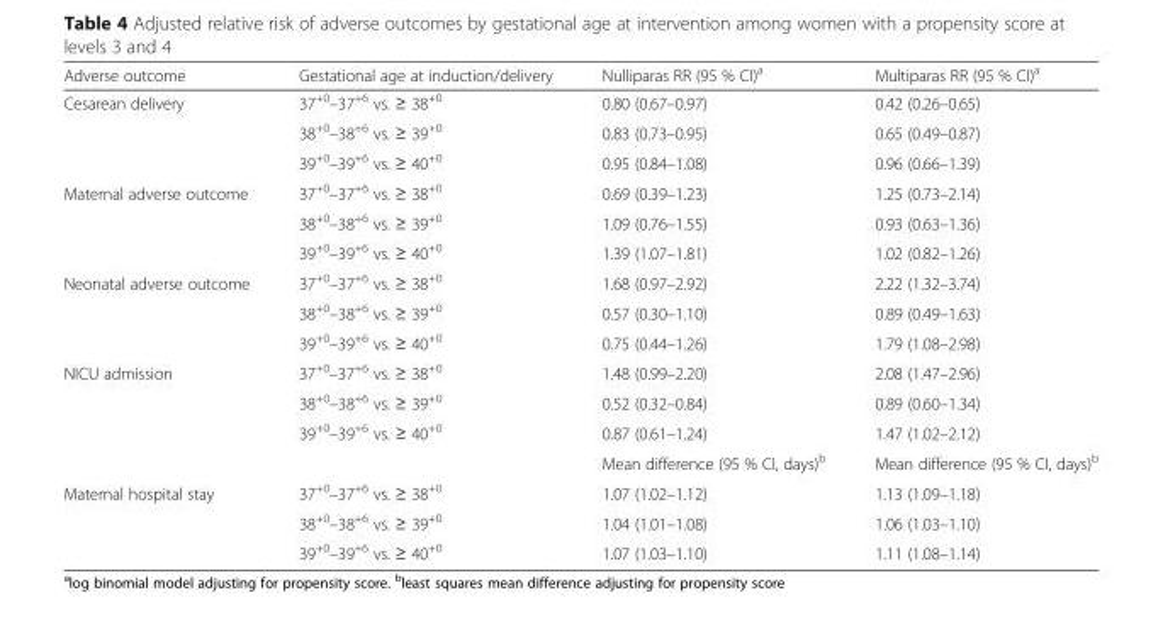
<table><thead><tr><td>Adverse outcome</td><td>Gestational age at induction/delivery</td><td>Nulliparas RR (95 % CI)<sup>a</sup></td><td>Multiparas RR (95 % CI)<sup>a</sup></td></tr></thead><tbody><tr><td rowspan="3">Cesarean delivery</td><td>37<sup>+0</sup>–37<sup>+6</sup> vs. ≥ 38<sup>+0</sup></td><td>0.80 (0.67–0.97)</td><td>0.42 (0.26–0.65)</td></tr><tr><td>38<sup>+0</sup>–38<sup>+6</sup> vs. ≥ 39<sup>+0</sup></td><td>0.83 (0.73–0.95)</td><td>0.65 (0.49–0.87)</td></tr><tr><td>39<sup>+0</sup>–39<sup>+6</sup> vs. ≥ 40<sup>+0</sup></td><td>0.95 (0.84–1.08)</td><td>0.96 (0.66–1.39)</td></tr><tr><td rowspan="3">Maternal adverse outcome</td><td>37<sup>+0</sup>–37<sup>+6</sup> vs. ≥ 38<sup>+0</sup></td><td>0.69 (0.39–1.23)</td><td>1.25 (0.73–2.14)</td></tr><tr><td>38<sup>+0</sup>–38<sup>+6</sup> vs. ≥ 39<sup>+0</sup></td><td>1.09 (0.76–1.55)</td><td>0.93 (0.63–1.36)</td></tr><tr><td>39<sup>+0</sup>–39<sup>+6</sup> vs. ≥ 40<sup>+0</sup></td><td>1.39 (1.07–1.81)</td><td>1.02 (0.82–1.26)</td></tr><tr><td rowspan="3">Neonatal adverse outcome</td><td>37<sup>+0</sup>–37<sup>+6</sup> vs. ≥ 38<sup>+0</sup></td><td>1.68 (0.97–2.92)</td><td>2.22 (1.32–3.74)</td></tr><tr><td>38<sup>+0</sup>–38<sup>+6</sup> vs. ≥ 39<sup>+0</sup></td><td>0.57 (0.30–1.10)</td><td>0.89 (0.49–1.63)</td></tr><tr><td>39<sup>+0</sup>–39<sup>+6</sup> vs. ≥ 40<sup>+0</sup></td><td>0.75 (0.44–1.26)</td><td>1.79 (1.08–2.98)</td></tr><tr><td rowspan="4">NICU admission</td><td>37<sup>+0</sup>–37<sup>+6</sup> vs. ≥ 38<sup>+0</sup></td><td>1.48 (0.99–2.20)</td><td>2.08 (1.47–2.96)</td></tr><tr><td>38<sup>+0</sup>–38<sup>+6</sup> vs. ≥ 39<sup>+0</sup></td><td>0.52 (0.32–0.84)</td><td>0.89 (0.60–1.34)</td></tr><tr><td>39<sup>+0</sup>–39<sup>+6</sup> vs. ≥ 40<sup>+0</sup></td><td>0.87 (0.61–1.24)</td><td>1.47 (1.02–2.12)</td></tr><tr><td></td><td>Mean difference (95 % CI, days)<sup>b</sup></td><td>Mean difference (95 % CI, days)<sup>b</sup></td></tr><tr><td rowspan="3">Maternal hospital stay</td><td>37<sup>+0</sup>–37<sup>+6</sup> vs. ≥ 38<sup>+0</sup></td><td>1.07 (1.02–1.12)</td><td>1.13 (1.09–1.18)</td></tr><tr><td>38<sup>+0</sup>–38<sup>+6</sup> vs. ≥ 39<sup>+0</sup></td><td>1.04 (1.01–1.08)</td><td>1.06 (1.03–1.10)</td></tr><tr><td>39<sup>+0</sup>–39<sup>+6</sup> vs. ≥ 40<sup>+0</sup></td><td>1.07 (1.03–1.10)</td><td>1.11 (1.08–1.14)</td></tr></tbody></table>